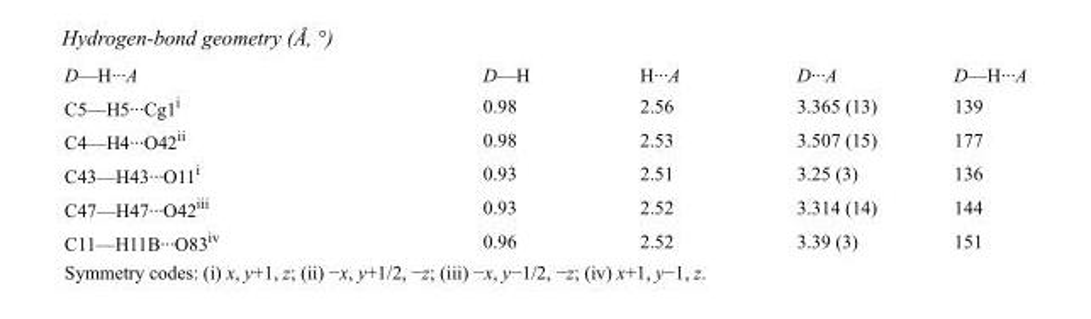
<table><tbody><tr><td>D—H···A</td><td>D—H</td><td>H···A</td><td>D···A</td><td>D—H···A</td></tr><tr><td>C5—H5···Cg1<sup>i</sup></td><td>0.98</td><td>2.56</td><td>3.365 (13)</td><td>139</td></tr><tr><td>C4—H4···O42<sup>ii</sup></td><td>0.98</td><td>2.53</td><td>3.507 (15)</td><td>177</td></tr><tr><td>C43—H43···O11<sup>i</sup></td><td>0.93</td><td>2.51</td><td>3.25 (3)</td><td>136</td></tr><tr><td>C47—H47···O42<sup>iii</sup></td><td>0.93</td><td>2.52</td><td>3.314 (14)</td><td>144</td></tr><tr><td>C11—H11B···O83<sup>iv</sup></td><td>0.96</td><td>2.52</td><td>3.39 (3)</td><td>151</td></tr></tbody></table>